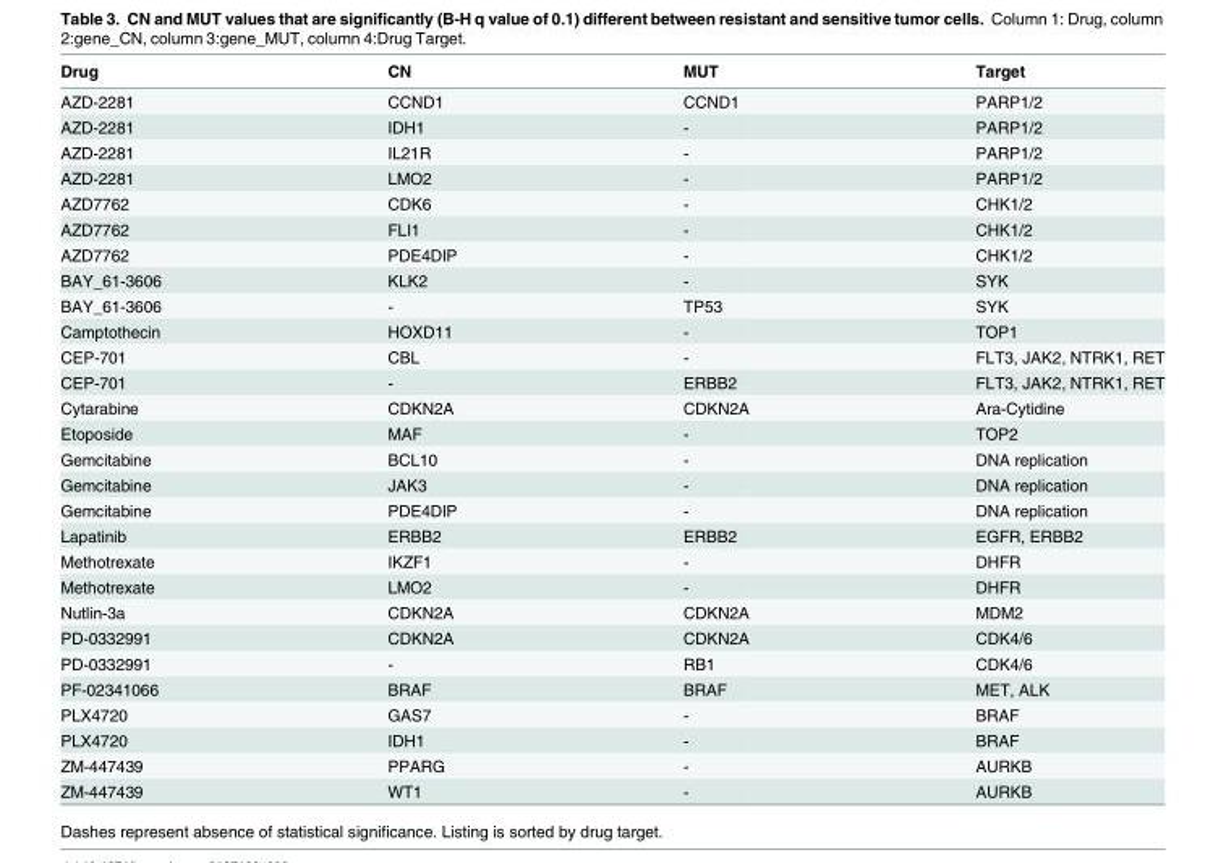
<table><thead><tr><td>Drug</td><td>CN</td><td>MUT</td><td>Target</td></tr></thead><tbody><tr><td>AZD-2281</td><td>CCND1</td><td>CCND1</td><td>PARP1/2</td></tr><tr><td>AZD-2281</td><td>IDH1</td><td>-</td><td>PARP1/2</td></tr><tr><td>AZD-2281</td><td>IL21R</td><td>-</td><td>PARP1/2</td></tr><tr><td>AZD-2281</td><td>LMO2</td><td>-</td><td>PARP1/2</td></tr><tr><td>AZD7762</td><td>CDK6</td><td>-</td><td>CHK1/2</td></tr><tr><td>AZD7762</td><td>FLI1</td><td>-</td><td>CHK1/2</td></tr><tr><td>AZD7762</td><td>PDE4DIP</td><td>-</td><td>CHK1/2</td></tr><tr><td>BAY_61-3606</td><td>KLK2</td><td>-</td><td>SYK</td></tr><tr><td>BAY_61-3606</td><td>-</td><td>TP53</td><td>SYK</td></tr><tr><td>Camptothecin</td><td>HOXD11</td><td>-</td><td>TOP1</td></tr><tr><td>CEP-701</td><td>CBL</td><td>-</td><td>FLT3, JAK2, NTRK1, RET</td></tr><tr><td>CEP-701</td><td>-</td><td>ERBB2</td><td>FLT3, JAK2, NTRK1, RET</td></tr><tr><td>Cytarabine</td><td>CDKN2A</td><td>CDKN2A</td><td>Ara-Cytidine</td></tr><tr><td>Etoposide</td><td>MAF</td><td>-</td><td>TOP2</td></tr><tr><td>Gemcitabine</td><td>BCL10</td><td>-</td><td>DNA replication</td></tr><tr><td>Gemcitabine</td><td>JAK3</td><td>-</td><td>DNA replication</td></tr><tr><td>Gemcitabine</td><td>PDE4DIP</td><td>-</td><td>DNA replication</td></tr><tr><td>Lapatinib</td><td>ERBB2</td><td>ERBB2</td><td>EGFR, ERBB2</td></tr><tr><td>Methotrexate</td><td>IKZF1</td><td>-</td><td>DHFR</td></tr><tr><td>Methotrexate</td><td>LMO2</td><td>-</td><td>DHFR</td></tr><tr><td>Nutlin-3a</td><td>CDKN2A</td><td>CDKN2A</td><td>MDM2</td></tr><tr><td>PD-0332991</td><td>CDKN2A</td><td>CDKN2A</td><td>CDK4/6</td></tr><tr><td>PD-0332991</td><td>-</td><td>RB1</td><td>CDK4/6</td></tr><tr><td>PF-02341066</td><td>BRAF</td><td>BRAF</td><td>MET, ALK</td></tr><tr><td>PLX4720</td><td>GAS7</td><td>-</td><td>BRAF</td></tr><tr><td>PLX4720</td><td>IDH1</td><td>-</td><td>BRAF</td></tr><tr><td>ZM-447439</td><td>PPARG</td><td>-</td><td>AURKB</td></tr><tr><td>ZM-447439</td><td>WT1</td><td>-</td><td>AURKB</td></tr></tbody></table>